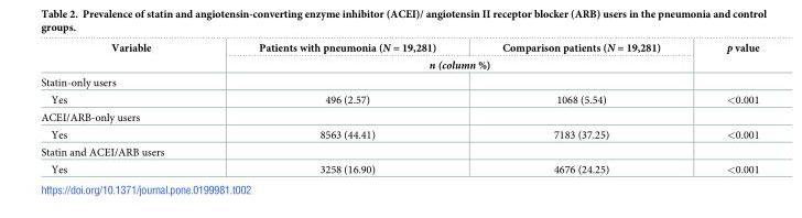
<table><thead><tr><td rowspan="2">Variable</td><td>Patients with pneumonia (N = 19,281)</td><td>Comparison patients (N = 19,281)</td><td rowspan="2">p value</td></tr><tr><td colspan="2">n (column %)</td></tr></thead><tbody><tr><td colspan="4">Statin-only users</td></tr><tr><td>Yes</td><td>496 (2.57)</td><td>1068 (5.54)</td><td>&lt;0.001</td></tr><tr><td colspan="4">ACEI/ARB-only users</td></tr><tr><td>Yes</td><td>8563 (44.41)</td><td>7183 (37.25)</td><td>&lt;0.001</td></tr><tr><td colspan="4">Statin and ACEI/ARB users</td></tr><tr><td>Yes</td><td>3258 (16.90)</td><td>4676 (24.25)</td><td>&lt;0.001</td></tr></tbody></table>